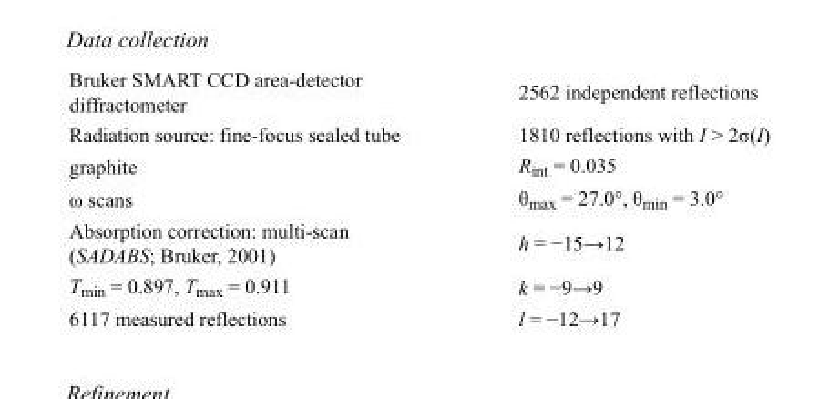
<table><tbody><tr><td>Bruker SMART CCD area-detector diffractometer</td><td>2562 independent reflections</td></tr><tr><td>Radiation source: fine-focus sealed tube</td><td>1810 reflections with I &gt; 2σ(I)</td></tr><tr><td>graphite</td><td>R<sub>int</sub> = 0.035</td></tr><tr><td>ω scans</td><td>θ<sub>max</sub> = 27.0°, θ<sub>min</sub> = 3.0°</td></tr><tr><td>Absorption correction: multi-scan (SADABS; Bruker, 2001)</td><td>h = −15→12</td></tr><tr><td>T<sub>min</sub> = 0.897, T<sub>max</sub> = 0.911</td><td>k = −9→9</td></tr><tr><td>6117 measured reflections</td><td>l = −12→17</td></tr></tbody></table>